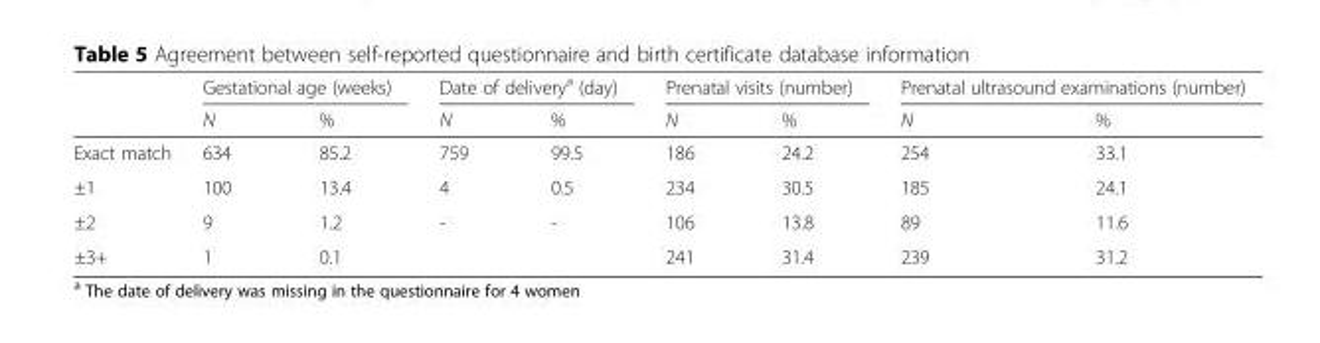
<table><thead><tr><td rowspan="2"></td><td colspan="2">Gestational age (weeks)</td><td colspan="2">Date of delivery<sup>a</sup> (day)</td><td colspan="2">Prenatal visits (number)</td><td colspan="2">Prenatal ultrasound examinations (number)</td></tr><tr><td>N</td><td>%</td><td>N</td><td>%</td><td>N</td><td>%</td><td>N</td><td>%</td></tr></thead><tbody><tr><td>Exact match</td><td>634</td><td>85.2</td><td>759</td><td>99.5</td><td>186</td><td>24.2</td><td>254</td><td>33.1</td></tr><tr><td>±1</td><td>100</td><td>13.4</td><td>4</td><td>0.5</td><td>234</td><td>30.5</td><td>185</td><td>24.1</td></tr><tr><td>±2</td><td>9</td><td>1.2</td><td>-</td><td>-</td><td>106</td><td>13.8</td><td>89</td><td>11.6</td></tr><tr><td>±3+</td><td>1</td><td>0.1</td><td></td><td></td><td>241</td><td>31.4</td><td>239</td><td>31.2</td></tr></tbody></table>